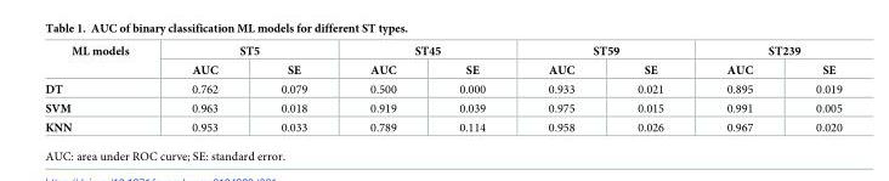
<table><thead><tr><td rowspan="2">ML models</td><td colspan="2">ST5</td><td colspan="2">ST45</td><td colspan="2">ST59</td><td colspan="2">ST239</td></tr><tr><td>AUC</td><td>SE</td><td>AUC</td><td>SE</td><td>AUC</td><td>SE</td><td>AUC</td><td>SE</td></tr></thead><tbody><tr><td>DT</td><td>0.762</td><td>0.079</td><td>0.500</td><td>0.000</td><td>0.933</td><td>0.021</td><td>0.895</td><td>0.019</td></tr><tr><td>SVM</td><td>0.963</td><td>0.018</td><td>0.919</td><td>0.039</td><td>0.975</td><td>0.015</td><td>0.991</td><td>0.005</td></tr><tr><td>KNN</td><td>0.953</td><td>0.033</td><td>0.789</td><td>0.114</td><td>0.958</td><td>0.026</td><td>0.967</td><td>0.020</td></tr></tbody></table>